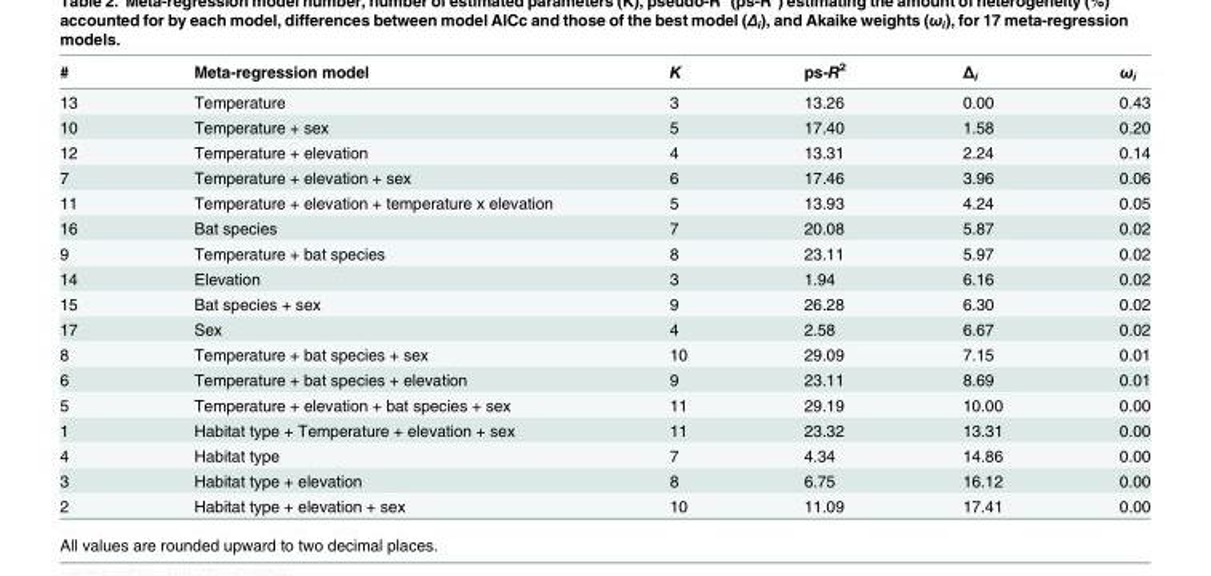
<table><thead><tr><td>#</td><td>Meta-regression model</td><td>K</td><td>ps-R<sup>2</sup></td><td>Δ<sub>i</sub></td><td>ω<sub>i</sub></td></tr></thead><tbody><tr><td>13</td><td>Temperature</td><td>3</td><td>13.26</td><td>0.00</td><td>0.43</td></tr><tr><td>10</td><td>Temperature + sex</td><td>5</td><td>17.40</td><td>1.58</td><td>0.20</td></tr><tr><td>12</td><td>Temperature + elevation</td><td>4</td><td>13.31</td><td>2.24</td><td>0.14</td></tr><tr><td>7</td><td>Temperature + elevation + sex</td><td>6</td><td>17.46</td><td>3.96</td><td>0.06</td></tr><tr><td>11</td><td>Temperature + elevation + temperature x elevation</td><td>5</td><td>13.93</td><td>4.24</td><td>0.05</td></tr><tr><td>16</td><td>Bat species</td><td>7</td><td>20.08</td><td>5.87</td><td>0.02</td></tr><tr><td>9</td><td>Temperature + bat species</td><td>8</td><td>23.11</td><td>5.97</td><td>0.02</td></tr><tr><td>14</td><td>Elevation</td><td>3</td><td>1.94</td><td>6.16</td><td>0.02</td></tr><tr><td>15</td><td>Bat species + sex</td><td>9</td><td>26.28</td><td>6.30</td><td>0.02</td></tr><tr><td>17</td><td>Sex</td><td>4</td><td>2.58</td><td>6.67</td><td>0.02</td></tr><tr><td>8</td><td>Temperature + bat species + sex</td><td>10</td><td>29.09</td><td>7.15</td><td>0.01</td></tr><tr><td>6</td><td>Temperature + bat species + elevation</td><td>9</td><td>23.11</td><td>8.69</td><td>0.01</td></tr><tr><td>5</td><td>Temperature + elevation + bat species + sex</td><td>11</td><td>29.19</td><td>10.00</td><td>0.00</td></tr><tr><td>1</td><td>Habitat type + Temperature + elevation + sex</td><td>11</td><td>23.32</td><td>13.31</td><td>0.00</td></tr><tr><td>4</td><td>Habitat type</td><td>7</td><td>4.34</td><td>14.86</td><td>0.00</td></tr><tr><td>3</td><td>Habitat type + elevation</td><td>8</td><td>6.75</td><td>16.12</td><td>0.00</td></tr><tr><td>2</td><td>Habitat type + elevation + sex</td><td>10</td><td>11.09</td><td>17.41</td><td>0.00</td></tr></tbody></table>